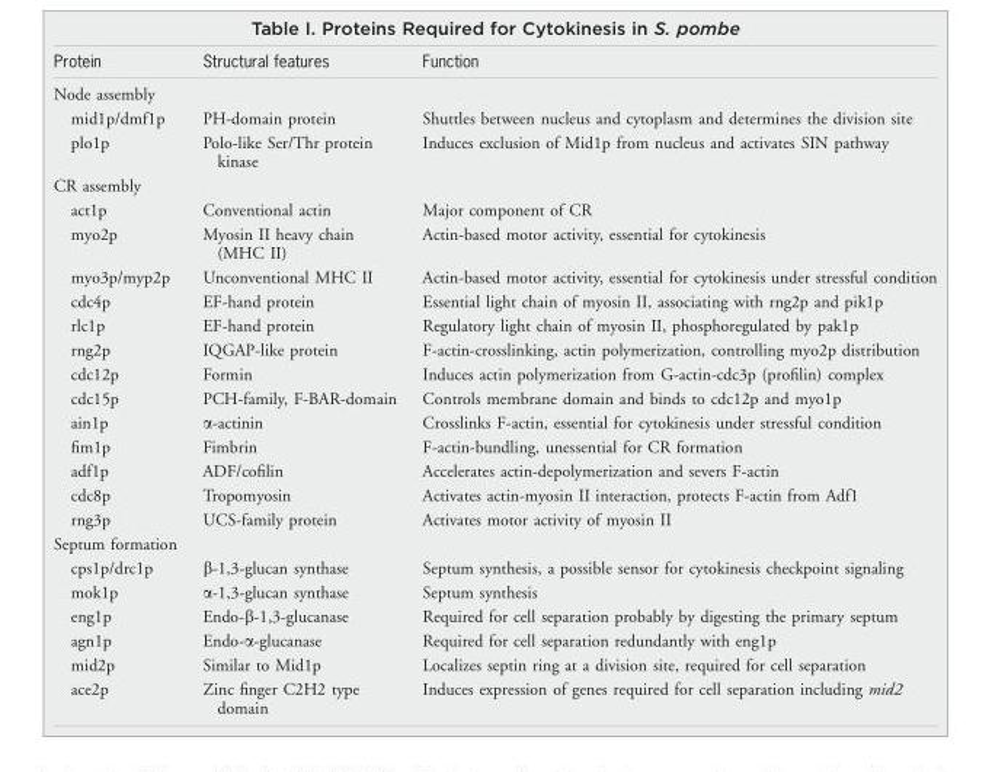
<table><thead><tr><td>Protein</td><td>Structural features</td><td>Function</td></tr></thead><tbody><tr><td colspan="3">Node assembly</td></tr><tr><td>mid1p/dmf1p</td><td>PH-domain protein</td><td>Shuttles between nucleus and cytoplasm and determines the division site</td></tr><tr><td>plo1p</td><td>Polo-like Ser/Thr protein kinase</td><td>Induces exclusion of Mid1p from nucleus and activates SIN pathway</td></tr><tr><td colspan="3">CR assembly</td></tr><tr><td>act1p</td><td>Conventional actin</td><td>Major component of CR</td></tr><tr><td>myo2p</td><td>Myosin II heavy chain (MHC II)</td><td>Actin-based motor activity, essential for cytokinesis</td></tr><tr><td>myo3p/myp2p</td><td>Unconventional MHC II</td><td>Actin-based motor activity, essential for cytokinesis under stressful condition</td></tr><tr><td>cdc4p</td><td>EF-hand protein</td><td>Essential light chain of myosin II, associating with rng2p and pik1p</td></tr><tr><td>rlc1p</td><td>EF-hand protein</td><td>Regulatory light chain of myosin II, phosphoregulated by pak1p</td></tr><tr><td>rng2p</td><td>IQGAP-like protein</td><td>F-actin-crosslinking, actin polymerization, controlling myo2p distribution</td></tr><tr><td>cdc12p</td><td>Formin</td><td>Induces actin polymerization from G-actin-cdc3p (profilin) complex</td></tr><tr><td>cdc15p</td><td>PCH-family, F-BAR-domain</td><td>Controls membrane domain and binds to cdc12p and myo1p</td></tr><tr><td>ain1p</td><td>α-actinin</td><td>Crosslinks F-actin, essential for cytokinesis under stressful condition</td></tr><tr><td>fim1p</td><td>Fimbrin</td><td>F-actin-bundling, unessential for CR formation</td></tr><tr><td>adf1p</td><td>ADF/cofilin</td><td>Accelerates actin-depolymerization and severs F-actin</td></tr><tr><td>cdc8p</td><td>Tropomyosin</td><td>Activates actin-myosin II interaction, protects F-actin from Adf1</td></tr><tr><td>rng3p</td><td>UCS-family protein</td><td>Activates motor activity of myosin II</td></tr><tr><td colspan="3">Septum formation</td></tr><tr><td>cps1p/drc1p</td><td>β-1,3-glucan synthase</td><td>Septum synthesis, a possible sensor for cytokinesis checkpoint signaling</td></tr><tr><td>mok1p</td><td>α-1,3-glucan synthase</td><td>Septum synthesis</td></tr><tr><td>eng1p</td><td>Endo-β-1,3-glucanase</td><td>Required for cell separation probably by digesting the primary septum</td></tr><tr><td>agn1p</td><td>Endo-α-glucanase</td><td>Required for cell separation redundantly with eng1p</td></tr><tr><td>mid2p</td><td>Similar to Mid1p</td><td>Localizes septin ring at a division site, required for cell separation</td></tr><tr><td>ace2p</td><td>Zinc finger C2H2 type domain</td><td>Induces expression of genes required for cell separation including mid2</td></tr></tbody></table>